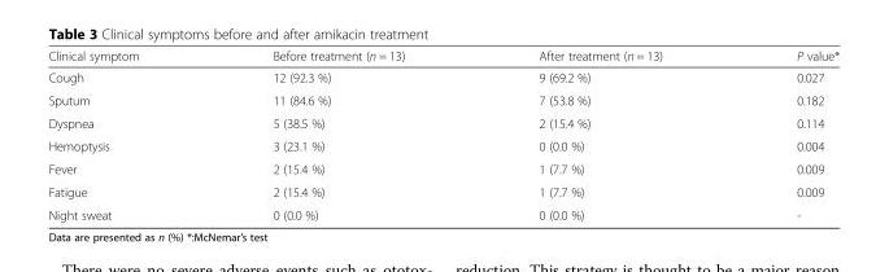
<table><thead><tr><td>Clinical symptom</td><td>Before treatment (n = 13)</td><td>After treatment (n = 13)</td><td>P value*</td></tr></thead><tbody><tr><td>Cough</td><td>12 (92.3 %)</td><td>9 (69.2 %)</td><td>0.027</td></tr><tr><td>Sputum</td><td>11 (84.6 %)</td><td>7 (53.8 %)</td><td>0.182</td></tr><tr><td>Dyspnea</td><td>5 (38.5 %)</td><td>2 (15.4 %)</td><td>0.114</td></tr><tr><td>Hemoptysis</td><td>3 (23.1 %)</td><td>0 (0.0 %)</td><td>0.004</td></tr><tr><td>Fever</td><td>2 (15.4 %)</td><td>1 (7.7 %)</td><td>0.009</td></tr><tr><td>Fatigue</td><td>2 (15.4 %)</td><td>1 (7.7 %)</td><td>0.009</td></tr><tr><td>Night sweat</td><td>0 (0.0 %)</td><td>0 (0.0 %)</td><td>-</td></tr></tbody></table>